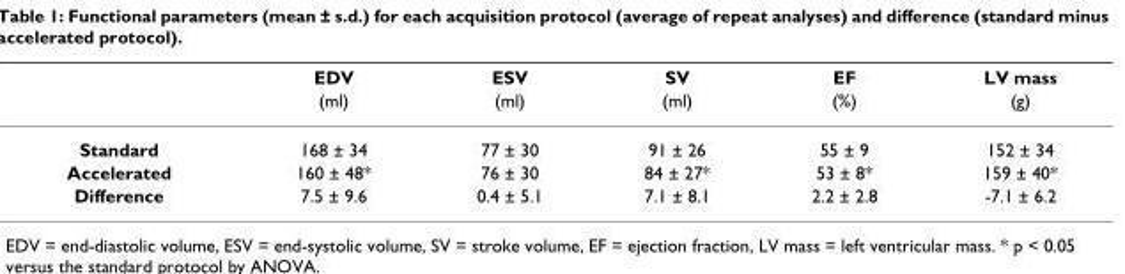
<table><thead><tr><td rowspan="2"></td><td rowspan="2">EDV (ml)</td><td rowspan="2">ESV (ml)</td><td rowspan="2">SV (ml)</td><td rowspan="2">EF (%)</td><td rowspan="2">LV mass (g)</td></tr><tr></tr></thead><tbody><tr><td>Standard</td><td>168 ± 34</td><td>77 ± 30</td><td>91 ± 26</td><td>55 ± 9</td><td>152 ± 34</td></tr><tr><td>Accelerated</td><td>160 ± 48*</td><td>76 ± 30</td><td>84 ± 27*</td><td>53 ± 8*</td><td>159 ± 40*</td></tr><tr><td>Difference</td><td>7.5 ± 9.6</td><td>0.4 ± 5.1</td><td>7.1 ± 8.1</td><td>2.2 ± 2.8</td><td>-7.1 ± 6.2</td></tr></tbody></table>